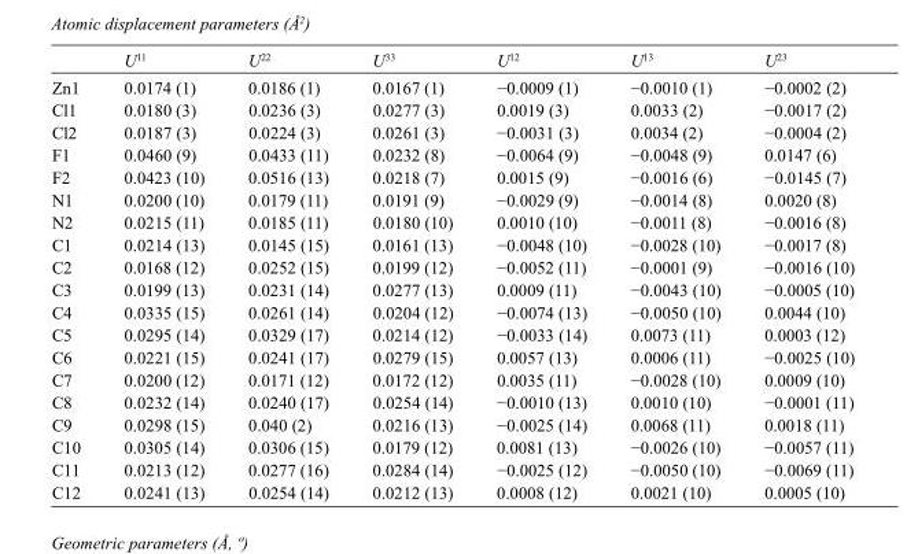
<table><thead><tr><td></td><td>U<sup>11</sup></td><td>U<sup>22</sup></td><td>U<sup>33</sup></td><td>U<sup>12</sup></td><td>U<sup>13</sup></td><td>U<sup>23</sup></td></tr></thead><tbody><tr><td>Zn1</td><td>0.0174 (1)</td><td>0.0186 (1)</td><td>0.0167 (1)</td><td>−0.0009 (1)</td><td>−0.0010 (1)</td><td>−0.0002 (2)</td></tr><tr><td>Cl1</td><td>0.0180 (3)</td><td>0.0236 (3)</td><td>0.0277 (3)</td><td>0.0019 (3)</td><td>0.0033 (2)</td><td>−0.0017 (2)</td></tr><tr><td>Cl2</td><td>0.0187 (3)</td><td>0.0224 (3)</td><td>0.0261 (3)</td><td>−0.0031 (3)</td><td>0.0034 (2)</td><td>−0.0004 (2)</td></tr><tr><td>F1</td><td>0.0460 (9)</td><td>0.0433 (11)</td><td>0.0232 (8)</td><td>−0.0064 (9)</td><td>−0.0048 (9)</td><td>0.0147 (6)</td></tr><tr><td>F2</td><td>0.0423 (10)</td><td>0.0516 (13)</td><td>0.0218 (7)</td><td>0.0015 (9)</td><td>−0.0016 (6)</td><td>−0.0145 (7)</td></tr><tr><td>N1</td><td>0.0200 (10)</td><td>0.0179 (11)</td><td>0.0191 (9)</td><td>−0.0029 (9)</td><td>−0.0014 (8)</td><td>0.0020 (8)</td></tr><tr><td>N2</td><td>0.0215 (11)</td><td>0.0185 (11)</td><td>0.0180 (10)</td><td>0.0010 (10)</td><td>−0.0011 (8)</td><td>−0.0016 (8)</td></tr><tr><td>C1</td><td>0.0214 (13)</td><td>0.0145 (15)</td><td>0.0161 (13)</td><td>−0.0048 (10)</td><td>−0.0028 (10)</td><td>−0.0017 (8)</td></tr><tr><td>C2</td><td>0.0168 (12)</td><td>0.0252 (15)</td><td>0.0199 (12)</td><td>−0.0052 (11)</td><td>−0.0001 (9)</td><td>−0.0016 (10)</td></tr><tr><td>C3</td><td>0.0199 (13)</td><td>0.0231 (14)</td><td>0.0277 (13)</td><td>0.0009 (11)</td><td>−0.0043 (10)</td><td>−0.0005 (10)</td></tr><tr><td>C4</td><td>0.0335 (15)</td><td>0.0261 (14)</td><td>0.0204 (12)</td><td>−0.0074 (13)</td><td>−0.0050 (10)</td><td>0.0044 (10)</td></tr><tr><td>C5</td><td>0.0295 (14)</td><td>0.0329 (17)</td><td>0.0214 (12)</td><td>−0.0033 (14)</td><td>0.0073 (11)</td><td>0.0003 (12)</td></tr><tr><td>C6</td><td>0.0221 (15)</td><td>0.0241 (17)</td><td>0.0279 (15)</td><td>0.0057 (13)</td><td>0.0006 (11)</td><td>−0.0025 (10)</td></tr><tr><td>C7</td><td>0.0200 (12)</td><td>0.0171 (12)</td><td>0.0172 (12)</td><td>0.0035 (11)</td><td>−0.0028 (10)</td><td>0.0009 (10)</td></tr><tr><td>C8</td><td>0.0232 (14)</td><td>0.0240 (17)</td><td>0.0254 (14)</td><td>−0.0010 (13)</td><td>0.0010 (10)</td><td>−0.0001 (11)</td></tr><tr><td>C9</td><td>0.0298 (15)</td><td>0.040 (2)</td><td>0.0216 (13)</td><td>−0.0025 (14)</td><td>0.0068 (11)</td><td>0.0018 (11)</td></tr><tr><td>C10</td><td>0.0305 (14)</td><td>0.0306 (15)</td><td>0.0179 (12)</td><td>0.0081 (13)</td><td>−0.0026 (10)</td><td>−0.0057 (11)</td></tr><tr><td>C11</td><td>0.0213 (12)</td><td>0.0277 (16)</td><td>0.0284 (14)</td><td>−0.0025 (12)</td><td>−0.0050 (10)</td><td>−0.0069 (11)</td></tr><tr><td>C12</td><td>0.0241 (13)</td><td>0.0254 (14)</td><td>0.0212 (13)</td><td>0.0008 (12)</td><td>0.0021 (10)</td><td>0.0005 (10)</td></tr></tbody></table>